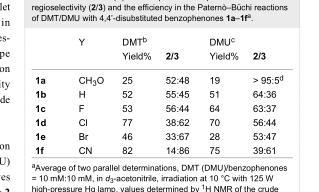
<table><thead><tr><td rowspan="2"></td><td rowspan="2">Y</td><td colspan="2">DMT<sup>b</sup></td><td colspan="2">DMU<sup>c</sup></td></tr><tr><td>Yield%</td><td>2/3</td><td>Yield%</td><td>2/3</td></tr></thead><tbody><tr><td>1a</td><td>CH<sub>3</sub>O</td><td>25</td><td>52:48</td><td>19</td><td>&gt; 95:5<sup>d</sup></td></tr><tr><td>1b</td><td>H</td><td>52</td><td>55:45</td><td>51</td><td>64:36</td></tr><tr><td>1c</td><td>F</td><td>53</td><td>56:44</td><td>64</td><td>63:37</td></tr><tr><td>1d</td><td>Cl</td><td>77</td><td>38:62</td><td>70</td><td>56:44</td></tr><tr><td>1e</td><td>Br</td><td>46</td><td>33:67</td><td>28</td><td>53:47</td></tr><tr><td>1f</td><td>CN</td><td>82</td><td>14:86</td><td>75</td><td>39:61</td></tr></tbody></table>